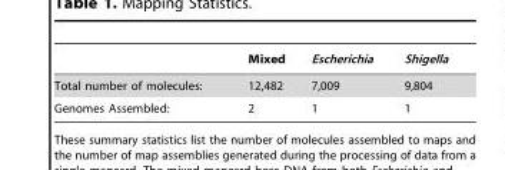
<table><thead><tr><td></td><td>Mixed</td><td>Escherichia</td><td>Shigella</td></tr></thead><tbody><tr><td>Total number of molecules:</td><td>12,482</td><td>7,009</td><td>9,804</td></tr><tr><td>Genomes Assembled:</td><td>2</td><td>1</td><td>1</td></tr></tbody></table>